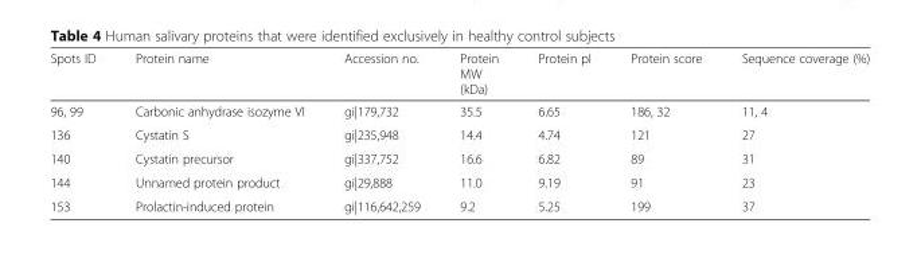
<table><thead><tr><td>Spots ID</td><td>Protein name</td><td>Accession no.</td><td>Protein MW (kDa)</td><td>Protein pI</td><td>Protein score</td><td>Sequence coverage (%)</td></tr></thead><tbody><tr><td>96, 99</td><td>Carbonic anhydrase isozyme VI</td><td>gi|179,732</td><td>35.5</td><td>6.65</td><td>186, 32</td><td>11, 4</td></tr><tr><td>136</td><td>Cystatin S</td><td>gi|235,948</td><td>14.4</td><td>4.74</td><td>121</td><td>27</td></tr><tr><td>140</td><td>Cystatin precursor</td><td>gi|337,752</td><td>16.6</td><td>6.82</td><td>89</td><td>31</td></tr><tr><td>144</td><td>Unnamed protein product</td><td>gi|29,888</td><td>11.0</td><td>9.19</td><td>91</td><td>23</td></tr><tr><td>153</td><td>Prolactin-induced protein</td><td>gi|116,642,259</td><td>9.2</td><td>5.25</td><td>199</td><td>37</td></tr></tbody></table>